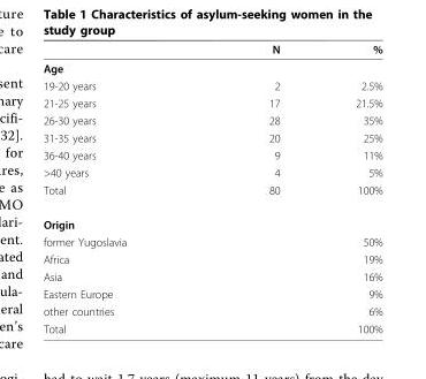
<table><thead><tr><td></td><td>N</td><td>%</td></tr></thead><tbody><tr><td colspan="3">Age</td></tr><tr><td>19-20 years</td><td>2</td><td>2.5%</td></tr><tr><td>21-25 years</td><td>17</td><td>21.5%</td></tr><tr><td>26-30 years</td><td>28</td><td>35%</td></tr><tr><td>31-35 years</td><td>20</td><td>25%</td></tr><tr><td>36-40 years</td><td>9</td><td>11%</td></tr><tr><td>&gt;40 years</td><td>4</td><td>5%</td></tr><tr><td>Total</td><td>80</td><td>100%</td></tr><tr><td colspan="3">Origin</td></tr><tr><td>former Yugoslavia</td><td></td><td>50%</td></tr><tr><td>Africa</td><td></td><td>19%</td></tr><tr><td>Asia</td><td></td><td>16%</td></tr><tr><td>Eastern Europe</td><td></td><td>9%</td></tr><tr><td>other countries</td><td></td><td>6%</td></tr><tr><td>Total</td><td></td><td>100%</td></tr></tbody></table>